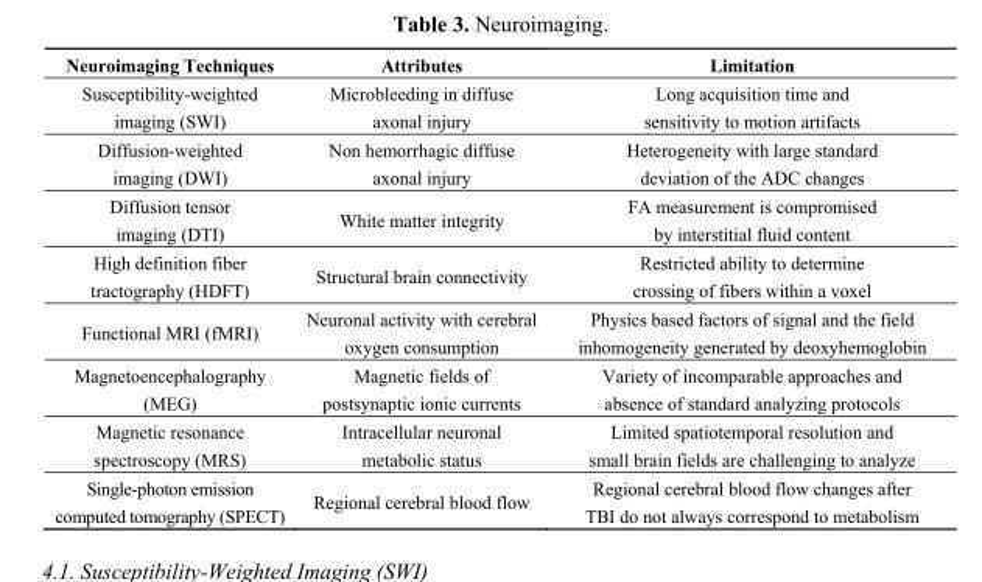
<table><thead><tr><td>Neuroimaging Techniques</td><td>Attributes</td><td>Limitation</td></tr></thead><tbody><tr><td>Susceptibility-weighted imaging (SWI)</td><td>Microbleeding in diffuse axonal injury</td><td>Long acquisition time and sensitivity to motion artifacts</td></tr><tr><td>Diffusion-weighted imaging (DWI)</td><td>Non hemorrhagic diffuse axonal injury</td><td>Heterogeneity with large standard deviation of the ADC changes</td></tr><tr><td>Diffusion tensor imaging (DTI)</td><td>White matter integrity</td><td>FA measurement is compromised by interstitial fluid content</td></tr><tr><td>High definition fiber tractography (HDFT)</td><td>Structural brain connectivity</td><td>Restricted ability to determine crossing of fibers within a voxel</td></tr><tr><td>Functional MRI (fMRI)</td><td>Neuronal activity with cerebral oxygen consumption</td><td>Physics based factors of signal and the field inhomogeneity generated by deoxyhemoglobin</td></tr><tr><td>Magnetoencephalography (MEG)</td><td>Magnetic fields of postsynaptic ionic currents</td><td>Variety of incomparable approaches and absence of standard analyzing protocols</td></tr><tr><td>Magnetic resonance spectroscopy (MRS)</td><td>Intracellular neuronal metabolic status</td><td>Limited spatiotemporal resolution and small brain fields are challenging to analyze</td></tr><tr><td>Single-photon emission computed tomography (SPECT)</td><td>Regional cerebral blood flow</td><td>Regional cerebral blood flow changes after TBI do not always correspond to metabolism</td></tr></tbody></table>